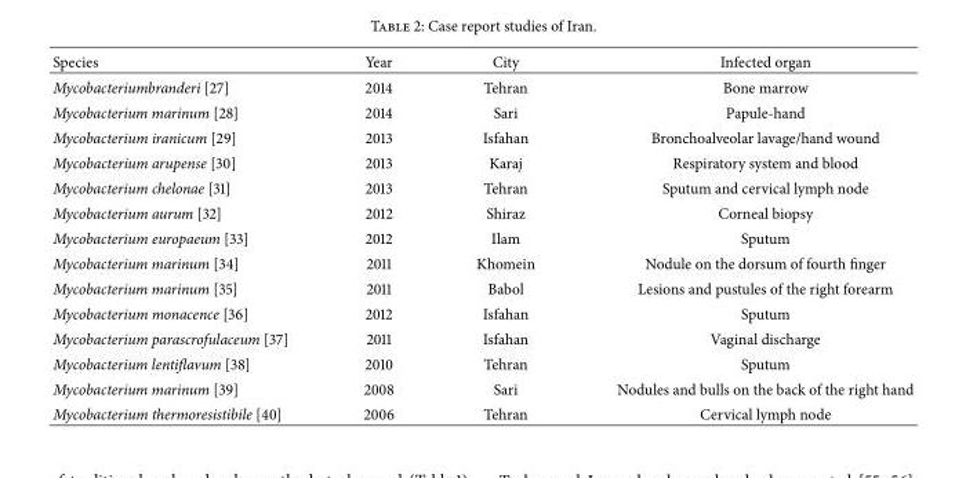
<table><thead><tr><td>Species</td><td>Year</td><td>City</td><td>Infected organ</td></tr></thead><tbody><tr><td>Mycobacteriumbranderi [27]</td><td>2014</td><td>Tehran</td><td>Bone marrow</td></tr><tr><td>Mycobacterium marinum [28]</td><td>2014</td><td>Sari</td><td>Papule-hand</td></tr><tr><td>Mycobacterium iranicum [29]</td><td>2013</td><td>Isfahan</td><td>Bronchoalveolar lavage/hand wound</td></tr><tr><td>Mycobacterium arupense [30]</td><td>2013</td><td>Karaj</td><td>Respiratory system and blood</td></tr><tr><td>Mycobacterium chelonae [31]</td><td>2013</td><td>Tehran</td><td>Sputum and cervical lymph node</td></tr><tr><td>Mycobacterium aurum [32]</td><td>2012</td><td>Shiraz</td><td>Corneal biopsy</td></tr><tr><td>Mycobacterium europaeum [33]</td><td>2012</td><td>Ilam</td><td>Sputum</td></tr><tr><td>Mycobacterium marinum [34]</td><td>2011</td><td>Khomein</td><td>Nodule on the dorsum of fourth finger</td></tr><tr><td>Mycobacterium marinum [35]</td><td>2011</td><td>Babol</td><td>Lesions and pustules of the right forearm</td></tr><tr><td>Mycobacterium monacence [36]</td><td>2012</td><td>Isfahan</td><td>Sputum</td></tr><tr><td>Mycobacterium parascrofulaceum [37]</td><td>2011</td><td>Isfahan</td><td>Vaginal discharge</td></tr><tr><td>Mycobacterium lentiflavum [38]</td><td>2010</td><td>Tehran</td><td>Sputum</td></tr><tr><td>Mycobacterium marinum [39]</td><td>2008</td><td>Sari</td><td>Nodules and bulls on the back of the right hand</td></tr><tr><td>Mycobacterium thermoresistibile [40]</td><td>2006</td><td>Tehran</td><td>Cervical lymph node</td></tr></tbody></table>